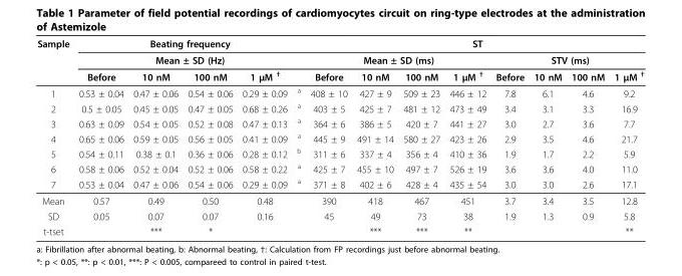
<table><thead><tr><td rowspan="3">Sample</td><td rowspan="2" colspan="5">Beating frequency Mean ± SD (Hz)</td><td colspan="8">ST</td></tr><tr><td colspan="4">Mean ± SD (ms)</td><td colspan="4">STV (ms)</td></tr><tr><td>Before</td><td>10 nM</td><td>100 nM</td><td>1 μM <sup>†</sup></td><td></td><td>Before</td><td>10 nM</td><td>100 nM</td><td>1 μM <sup>†</sup></td><td>Before</td><td>10 nM</td><td>100 nM</td><td>1 μM <sup>†</sup></td></tr></thead><tbody><tr><td>1</td><td>0.53 ± 0.04</td><td>0.47 ± 0.06</td><td>0.54 ± 0.06</td><td>0.29 ± 0.09</td><td><sup>a</sup></td><td>408 ± 10</td><td>427 ± 9</td><td>509 ± 23</td><td>446 ± 12</td><td>7.8</td><td>6.1</td><td>4.6</td><td>9.2</td></tr><tr><td>2</td><td>0.5 ± 0.05</td><td>0.45 ± 0.05</td><td>0.47 ± 0.05</td><td>0.68 ± 0.26</td><td><sup>a</sup></td><td>403 ± 5</td><td>425 ± 7</td><td>481 ± 12</td><td>473 ± 49</td><td>3.4</td><td>3.1</td><td>3.3</td><td>16.9</td></tr><tr><td>3</td><td>0.63 ± 0.09</td><td>0.54 ± 0.05</td><td>0.52 ± 0.08</td><td>0.47 ± 0.13</td><td><sup>a</sup></td><td>364 ± 6</td><td>386 ± 5</td><td>420 ± 7</td><td>441 ± 27</td><td>3.0</td><td>2.7</td><td>3.6</td><td>7.7</td></tr><tr><td>4</td><td>0.65 ± 0.06</td><td>0.59 ± 0.05</td><td>0.56 ± 0.05</td><td>0.41 ± 0.09</td><td><sup>a</sup></td><td>445 ± 9</td><td>491 ± 14</td><td>580 ± 27</td><td>423 ± 26</td><td>2.9</td><td>3.5</td><td>4.6</td><td>21.7</td></tr><tr><td>5</td><td>0.54 ± 0.11</td><td>0.38 ± 0.1</td><td>0.36 ± 0.06</td><td>0.28 ± 0.12</td><td><sup>b</sup></td><td>311 ± 6</td><td>337 ± 4</td><td>356 ± 4</td><td>410 ± 36</td><td>1.9</td><td>1.7</td><td>2.2</td><td>5.9</td></tr><tr><td>6</td><td>0.58 ± 0.06</td><td>0.52 ± 0.04</td><td>0.52 ± 0.06</td><td>0.58 ± 0.22</td><td><sup>a</sup></td><td>425 ± 7</td><td>455 ± 10</td><td>497 ± 7</td><td>526 ± 19</td><td>3.6</td><td>3.6</td><td>4.0</td><td>11.0</td></tr><tr><td>7</td><td>0.53 ± 0.04</td><td>0.47 ± 0.06</td><td>0.54 ± 0.06</td><td>0.29 ± 0.09</td><td><sup>a</sup></td><td>371 ± 8</td><td>402 ± 6</td><td>428 ± 4</td><td>435 ± 54</td><td>3.0</td><td>3.0</td><td>2.6</td><td>17.1</td></tr><tr><td>Mean</td><td>0.57</td><td>0.49</td><td>0.50</td><td>0.48</td><td></td><td>390</td><td>418</td><td>467</td><td>451</td><td>3.7</td><td>3.4</td><td>3.5</td><td>12.8</td></tr><tr><td>SD</td><td>0.05</td><td>0.07</td><td>0.07</td><td>0.16</td><td></td><td>45</td><td>49</td><td>73</td><td>38</td><td>1.9</td><td>1.3</td><td>0.9</td><td>5.8</td></tr><tr><td>t-tset</td><td></td><td>***</td><td>*</td><td></td><td></td><td></td><td>***</td><td>***</td><td>**</td><td></td><td></td><td></td><td>**</td></tr></tbody></table>